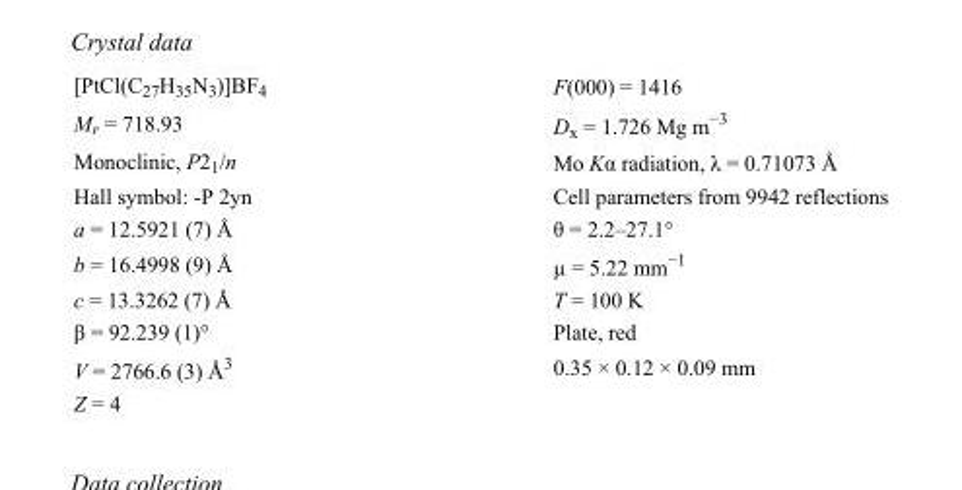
<table><tbody><tr><td>[PtCl(C<sub>27</sub>H<sub>35</sub>N<sub>3</sub>)]BF<sub>4</sub></td><td>F(000) = 1416</td></tr><tr><td>M<sub>r</sub> = 718.93</td><td>D<sub>x</sub> = 1.726 Mg m<sup>−3</sup></td></tr><tr><td>Monoclinic, P2<sub>1</sub>/n</td><td>Mo Kα radiation, λ = 0.71073 Å</td></tr><tr><td>Hall symbol: -P 2yn</td><td>Cell parameters from 9942 reflections</td></tr><tr><td>a = 12.5921 (7) Å</td><td>θ = 2.2–27.1°</td></tr><tr><td>b = 16.4998 (9) Å</td><td>µ = 5.22 mm<sup>−1</sup></td></tr><tr><td>c = 13.3262 (7) Å</td><td>T = 100 K</td></tr><tr><td>β = 92.239 (1)°</td><td>Plate, red</td></tr><tr><td>V = 2766.6 (3) Å<sup>3</sup></td><td>0.35 × 0.12 × 0.09 mm</td></tr><tr><td>Z = 4</td><td></td></tr></tbody></table>